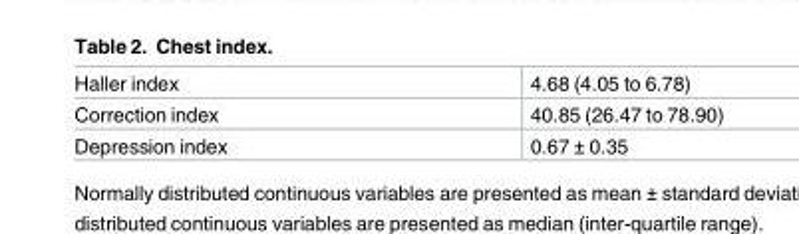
<table><tbody><tr><td>Haller index</td><td>4.68 (4.05 to 6.78)</td></tr><tr><td>Correction index</td><td>40.85 (26.47 to 78.90)</td></tr><tr><td>Depression index</td><td>0.67 ± 0.35</td></tr></tbody></table>